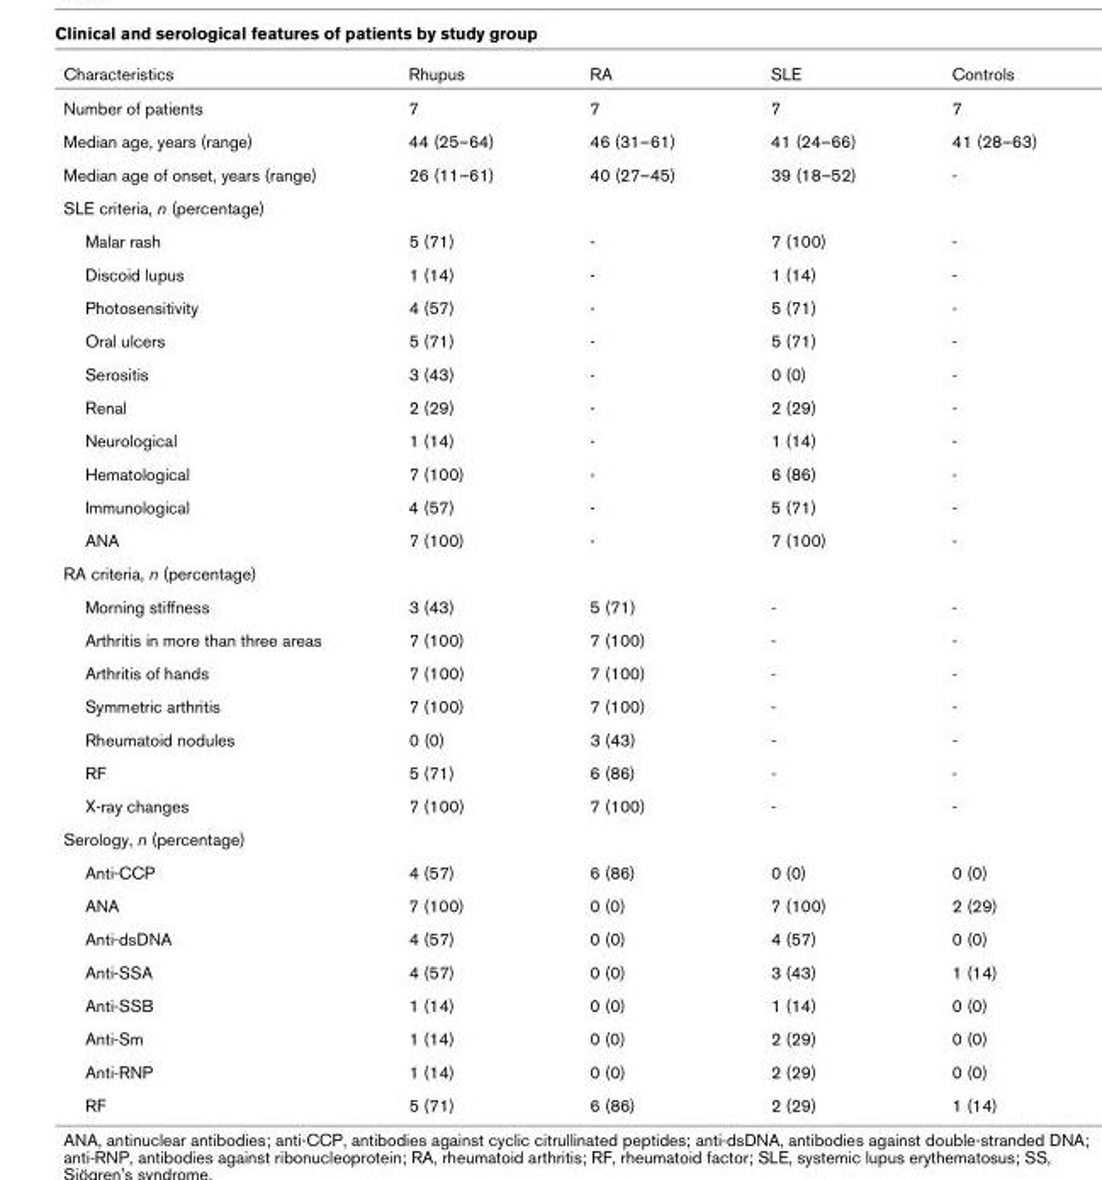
<table><thead><tr><td>Characteristics</td><td>Rhupus</td><td>RA</td><td>SLE</td><td>Controls</td></tr></thead><tbody><tr><td>Number of patients</td><td>7</td><td>7</td><td>7</td><td>7</td></tr><tr><td>Median age, years (range)</td><td>44 (25–64)</td><td>46 (31–61)</td><td>41 (24–66)</td><td>41 (28–63)</td></tr><tr><td>Median age of onset, years (range)</td><td>26 (11–61)</td><td>40 (27–45)</td><td>39 (18–52)</td><td>-</td></tr><tr><td colspan="5">SLE criteria, n (percentage)</td></tr><tr><td>Malar rash</td><td>5 (71)</td><td>-</td><td>7 (100)</td><td>-</td></tr><tr><td>Discoid lupus</td><td>1 (14)</td><td>-</td><td>1 (14)</td><td>-</td></tr><tr><td>Photosensitivity</td><td>4 (57)</td><td>-</td><td>5 (71)</td><td>-</td></tr><tr><td>Oral ulcers</td><td>5 (71)</td><td>-</td><td>5 (71)</td><td>-</td></tr><tr><td>Serositis</td><td>3 (43)</td><td>-</td><td>0 (0)</td><td>-</td></tr><tr><td>Renal</td><td>2 (29)</td><td>-</td><td>2 (29)</td><td>-</td></tr><tr><td>Neurological</td><td>1 (14)</td><td>-</td><td>1 (14)</td><td>-</td></tr><tr><td>Hematological</td><td>7 (100)</td><td>-</td><td>6 (86)</td><td>-</td></tr><tr><td>Immunological</td><td>4 (57)</td><td>-</td><td>5 (71)</td><td>-</td></tr><tr><td>ANA</td><td>7 (100)</td><td>-</td><td>7 (100)</td><td>-</td></tr><tr><td colspan="5">RA criteria, n (percentage)</td></tr><tr><td>Morning stiffness</td><td>3 (43)</td><td>5 (71)</td><td>-</td><td>-</td></tr><tr><td>Arthritis in more than three areas</td><td>7 (100)</td><td>7 (100)</td><td>-</td><td>-</td></tr><tr><td>Arthritis of hands</td><td>7 (100)</td><td>7 (100)</td><td>-</td><td>-</td></tr><tr><td>Symmetric arthritis</td><td>7 (100)</td><td>7 (100)</td><td>-</td><td>-</td></tr><tr><td>Rheumatoid nodules</td><td>0 (0)</td><td>3 (43)</td><td>-</td><td>-</td></tr><tr><td>RF</td><td>5 (71)</td><td>6 (86)</td><td>-</td><td>-</td></tr><tr><td>X-ray changes</td><td>7 (100)</td><td>7 (100)</td><td>-</td><td>-</td></tr><tr><td colspan="5">Serology, n (percentage)</td></tr><tr><td>Anti-CCP</td><td>4 (57)</td><td>6 (86)</td><td>0 (0)</td><td>0 (0)</td></tr><tr><td>ANA</td><td>7 (100)</td><td>0 (0)</td><td>7 (100)</td><td>2 (29)</td></tr><tr><td>Anti-dsDNA</td><td>4 (57)</td><td>0 (0)</td><td>4 (57)</td><td>0 (0)</td></tr><tr><td>Anti-SSA</td><td>4 (57)</td><td>0 (0)</td><td>3 (43)</td><td>1 (14)</td></tr><tr><td>Anti-SSB</td><td>1 (14)</td><td>0 (0)</td><td>1 (14)</td><td>0 (0)</td></tr><tr><td>Anti-Sm</td><td>1 (14)</td><td>0 (0)</td><td>2 (29)</td><td>0 (0)</td></tr><tr><td>Anti-RNP</td><td>1 (14)</td><td>0 (0)</td><td>2 (29)</td><td>0 (0)</td></tr><tr><td>RF</td><td>5 (71)</td><td>6 (86)</td><td>2 (29)</td><td>1 (14)</td></tr></tbody></table>